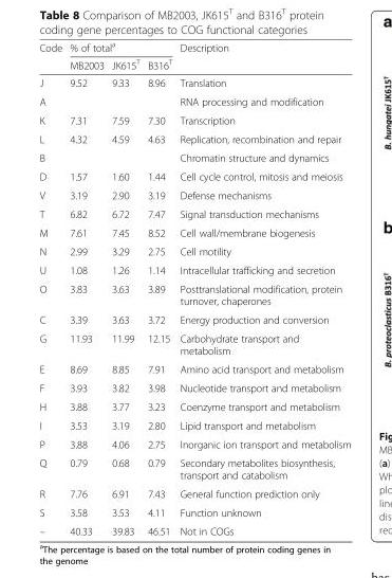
<table><thead><tr><td rowspan="2">Code</td><td colspan="3">% of total<sup>a</sup></td><td rowspan="2">Description</td></tr><tr><td>MB2003</td><td>JK615<sup>T</sup></td><td>B316<sup>T</sup></td></tr></thead><tbody><tr><td>J</td><td>9.52</td><td>9.33</td><td>8.96</td><td>Translation</td></tr><tr><td>A</td><td></td><td></td><td></td><td>RNA processing and modification</td></tr><tr><td>K</td><td>7.31</td><td>7.59</td><td>7.30</td><td>Transcription</td></tr><tr><td>L</td><td>4.32</td><td>4.59</td><td>4.63</td><td>Replication, recombination and repair</td></tr><tr><td>B</td><td></td><td></td><td></td><td>Chromatin structure and dynamics</td></tr><tr><td>D</td><td>1.57</td><td>1.60</td><td>1.44</td><td>Cell cycle control, mitosis and meiosis</td></tr><tr><td>V</td><td>3.19</td><td>2.90</td><td>3.19</td><td>Defense mechanisms</td></tr><tr><td>T</td><td>6.82</td><td>6.72</td><td>7.47</td><td>Signal transduction mechanisms</td></tr><tr><td>M</td><td>7.61</td><td>7.45</td><td>8.52</td><td>Cell wall/membrane biogenesis</td></tr><tr><td>N</td><td>2.99</td><td>3.29</td><td>2.75</td><td>Cell motility</td></tr><tr><td>U</td><td>1.08</td><td>1.26</td><td>1.14</td><td>Intracellular trafficking and secretion</td></tr><tr><td>O</td><td>3.83</td><td>3.63</td><td>3.89</td><td>Posttranslational modification, protein turnover, chaperones</td></tr><tr><td>C</td><td>3.39</td><td>3.63</td><td>3.72</td><td>Energy production and conversion</td></tr><tr><td>G</td><td>11.93</td><td>11.99</td><td>12.15</td><td>Carbohydrate transport and metabolism</td></tr><tr><td>E</td><td>8.69</td><td>8.85</td><td>7.91</td><td>Amino acid transport and metabolism</td></tr><tr><td>F</td><td>3.93</td><td>3.82</td><td>3.98</td><td>Nucleotide transport and metabolism</td></tr><tr><td>H</td><td>3.88</td><td>3.77</td><td>3.23</td><td>Coenzyme transport and metabolism</td></tr><tr><td>I</td><td>3.53</td><td>3.19</td><td>2.80</td><td>Lipid transport and metabolism</td></tr><tr><td>P</td><td>3.88</td><td>4.06</td><td>2.75</td><td>Inorganic ion transport and metabolism</td></tr><tr><td>Q</td><td>0.79</td><td>0.68</td><td>0.79</td><td>Secondary metabolites biosynthesis, transport and catabolism</td></tr><tr><td>R</td><td>7.76</td><td>6.91</td><td>7.43</td><td>General function prediction only</td></tr><tr><td>S</td><td>3.58</td><td>3.53</td><td>4.11</td><td>Function unknown</td></tr><tr><td>–</td><td>40.33</td><td>39.83</td><td>46.51</td><td>Not in COGs</td></tr></tbody></table>